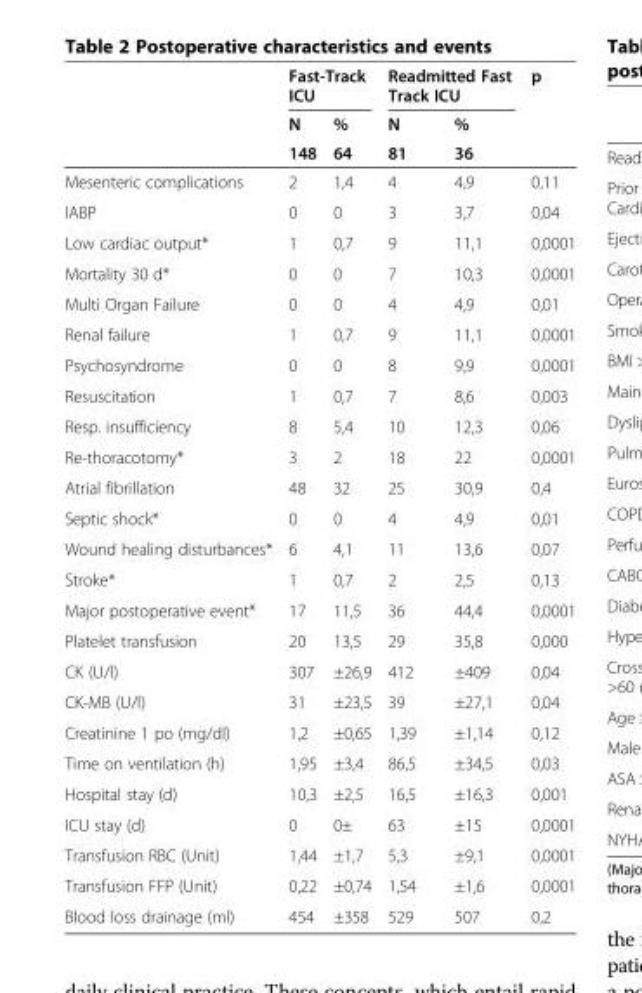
<table><thead><tr><td rowspan="3"></td><td colspan="2">Fast-Track ICU</td><td colspan="2">Readmitted Fast Track ICU</td><td rowspan="3">p</td></tr><tr><td rowspan="2">N 148</td><td rowspan="2">% 64</td><td rowspan="2">N 81</td><td rowspan="2">% 36</td></tr><tr></tr></thead><tbody><tr><td>Mesenteric complications</td><td>2</td><td>1,4</td><td>4</td><td>4,9</td><td>0,11</td></tr><tr><td>IABP</td><td>0</td><td>0</td><td>3</td><td>3,7</td><td>0,04</td></tr><tr><td>Low cardiac output*</td><td>1</td><td>0,7</td><td>9</td><td>11,1</td><td>0,0001</td></tr><tr><td>Mortality 30 d*</td><td>0</td><td>0</td><td>7</td><td>10,3</td><td>0,0001</td></tr><tr><td>Multi Organ Failure</td><td>0</td><td>0</td><td>4</td><td>4,9</td><td>0,01</td></tr><tr><td>Renal failure</td><td>1</td><td>0,7</td><td>9</td><td>11,1</td><td>0,0001</td></tr><tr><td>Psychosyndrome</td><td>0</td><td>0</td><td>8</td><td>9,9</td><td>0,0001</td></tr><tr><td>Resuscitation</td><td>1</td><td>0,7</td><td>7</td><td>8,6</td><td>0,003</td></tr><tr><td>Resp. insufficiency</td><td>8</td><td>5,4</td><td>10</td><td>12,3</td><td>0,06</td></tr><tr><td>Re-thoracotomy*</td><td>3</td><td>2</td><td>18</td><td>22</td><td>0,0001</td></tr><tr><td>Atrial fibrillation</td><td>48</td><td>32</td><td>25</td><td>30,9</td><td>0,4</td></tr><tr><td>Septic shock*</td><td>0</td><td>0</td><td>4</td><td>4,9</td><td>0,01</td></tr><tr><td>Wound healing disturbances*</td><td>6</td><td>4,1</td><td>11</td><td>13,6</td><td>0,07</td></tr><tr><td>Stroke*</td><td>1</td><td>0,7</td><td>2</td><td>2,5</td><td>0,13</td></tr><tr><td>Major postoperative event*</td><td>17</td><td>11,5</td><td>36</td><td>44,4</td><td>0,0001</td></tr><tr><td>Platelet transfusion</td><td>20</td><td>13,5</td><td>29</td><td>35,8</td><td>0,000</td></tr><tr><td>CK (U/l)</td><td>307</td><td>±26,9</td><td>412</td><td>±409</td><td>0,04</td></tr><tr><td>CK-MB (U/l)</td><td>31</td><td>±23,5</td><td>39</td><td>±27,1</td><td>0,04</td></tr><tr><td>Creatinine 1 po (mg/dl)</td><td>1,2</td><td>±0,65</td><td>1,39</td><td>±1,14</td><td>0,12</td></tr><tr><td>Time on ventilation (h)</td><td>1,95</td><td>±3,4</td><td>86,5</td><td>±34,5</td><td>0,03</td></tr><tr><td>Hospital stay (d)</td><td>10,3</td><td>±2,5</td><td>16,5</td><td>±16,3</td><td>0,001</td></tr><tr><td>ICU stay (d)</td><td>0</td><td>0±</td><td>63</td><td>±15</td><td>0,0001</td></tr><tr><td>Transfusion RBC (Unit)</td><td>1,44</td><td>±1,7</td><td>5,3</td><td>±9,1</td><td>0,0001</td></tr><tr><td>Transfusion FFP (Unit)</td><td>0,22</td><td>±0,74</td><td>1,54</td><td>±1,6</td><td>0,0001</td></tr><tr><td>Blood loss drainage (ml)</td><td>454</td><td>±358</td><td>529</td><td>507</td><td>0,2</td></tr></tbody></table>